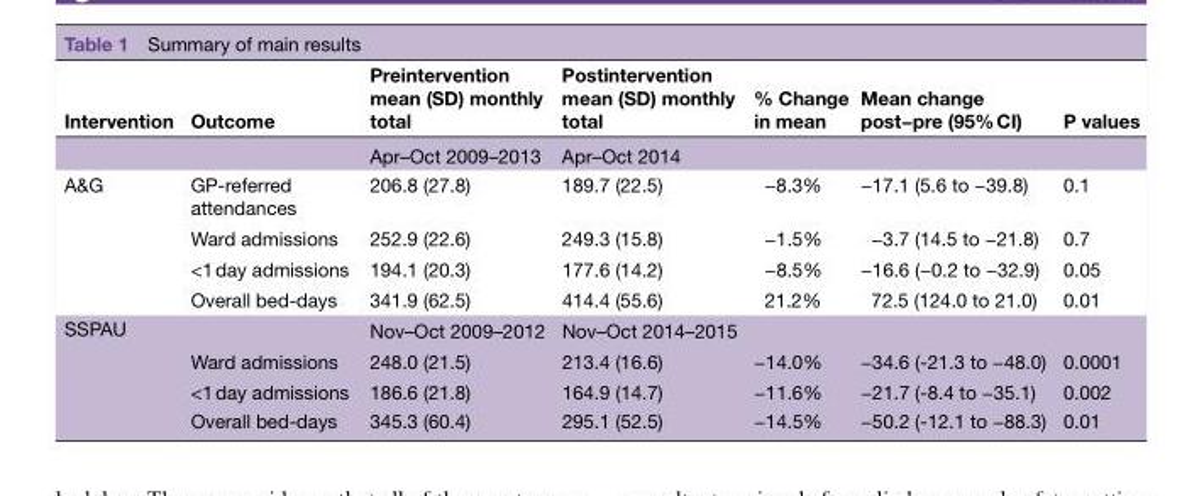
<table><thead><tr><td>Intervention</td><td>Outcome</td><td>Preintervention mean (SD) monthly total</td><td>Postintervention mean (SD) monthly total</td><td>% Change in mean</td><td>Mean change post−pre (95% CI)</td><td>P values</td></tr></thead><tbody><tr><td></td><td></td><td>Apr–Oct 2009–2013</td><td>Apr–Oct 2014</td><td></td><td></td><td></td></tr><tr><td rowspan="4">A&amp;G</td><td>GP-referred attendances</td><td>206.8 (27.8)</td><td>189.7 (22.5)</td><td>−8.3%</td><td>−17.1 (5.6 to −39.8)</td><td>0.1</td></tr><tr><td>Ward admissions</td><td>252.9 (22.6)</td><td>249.3 (15.8)</td><td>−1.5%</td><td>−3.7 (14.5 to −21.8)</td><td>0.7</td></tr><tr><td>&lt;1 day admissions</td><td>194.1 (20.3)</td><td>177.6 (14.2)</td><td>−8.5%</td><td>−16.6 (−0.2 to −32.9)</td><td>0.05</td></tr><tr><td>Overall bed-days</td><td>341.9 (62.5)</td><td>414.4 (55.6)</td><td>21.2%</td><td>72.5 (124.0 to 21.0)</td><td>0.01</td></tr><tr><td rowspan="4">SSPAU</td><td></td><td>Nov–Oct 2009–2012</td><td>Nov–Oct 2014–2015</td><td></td><td></td><td></td></tr><tr><td>Ward admissions</td><td>248.0 (21.5)</td><td>213.4 (16.6)</td><td>−14.0%</td><td>−34.6 (-21.3 to −48.0)</td><td>0.0001</td></tr><tr><td>&lt;1 day admissions</td><td>186.6 (21.8)</td><td>164.9 (14.7)</td><td>−11.6%</td><td>−21.7 (-8.4 to −35.1)</td><td>0.002</td></tr><tr><td>Overall bed-days</td><td>345.3 (60.4)</td><td>295.1 (52.5)</td><td>−14.5%</td><td>−50.2 (-12.1 to −88.3)</td><td>0.01</td></tr></tbody></table>